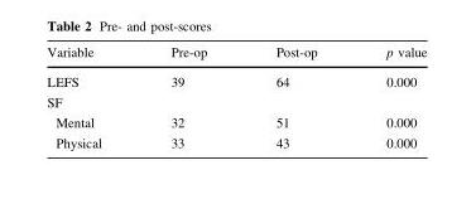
<table><thead><tr><td>Variable</td><td>Pre-op</td><td>Post-op</td><td>p value</td></tr></thead><tbody><tr><td>LEFS</td><td>39</td><td>64</td><td>0.000</td></tr><tr><td colspan="4">SF</td></tr><tr><td>Mental</td><td>32</td><td>51</td><td>0.000</td></tr><tr><td>Physical</td><td>33</td><td>43</td><td>0.000</td></tr></tbody></table>